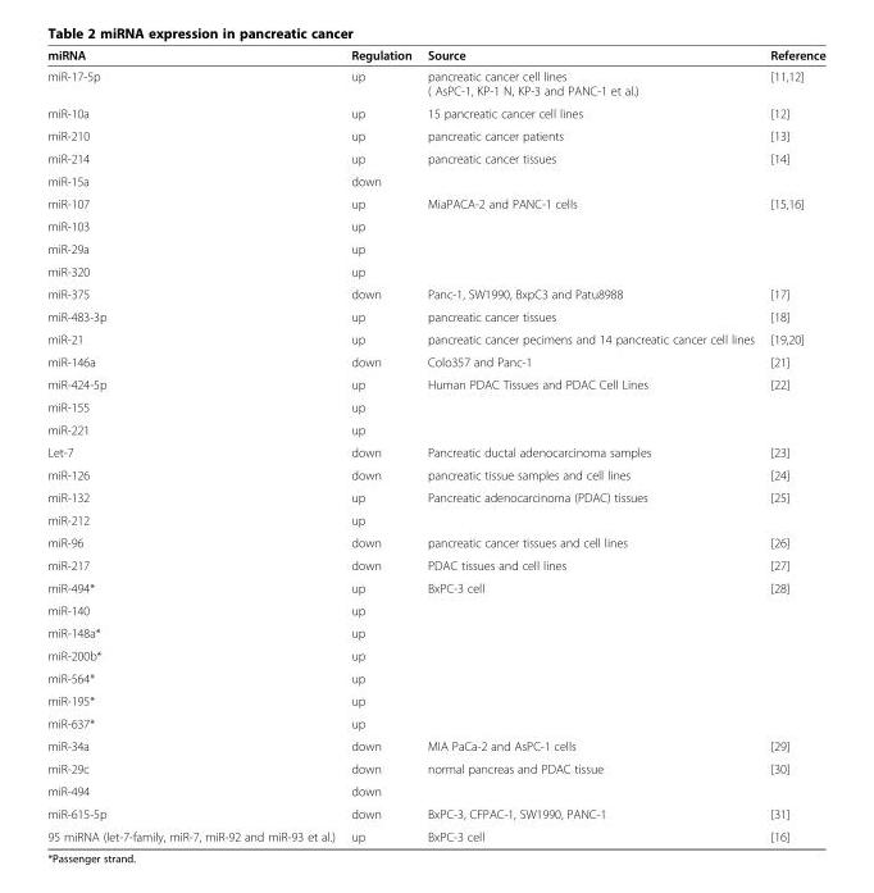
<table><thead><tr><td>miRNA</td><td>Regulation</td><td>Source</td><td>Reference</td></tr></thead><tbody><tr><td>miR-17-5p</td><td>up</td><td>pancreatic cancer cell lines ( AsPC-1, KP-1 N, KP-3 and PANC-1 et al.)</td><td>[11,12]</td></tr><tr><td>miR-10a</td><td>up</td><td>15 pancreatic cancer cell lines</td><td>[12]</td></tr><tr><td>miR-210</td><td>up</td><td>pancreatic cancer patients</td><td>[13]</td></tr><tr><td>miR-214</td><td>up</td><td>pancreatic cancer tissues</td><td>[14]</td></tr><tr><td>miR-15a</td><td>down</td><td></td><td></td></tr><tr><td>miR-107</td><td>up</td><td rowspan="4">MiaPACA-2 and PANC-1 cells</td><td rowspan="4">[15,16]</td></tr><tr><td>miR-103</td><td>up</td></tr><tr><td>miR-29a</td><td>up</td></tr><tr><td>miR-320</td><td>up</td></tr><tr><td>miR-375</td><td>down</td><td>Panc-1, SW1990, BxpC3 and Patu8988</td><td>[17]</td></tr><tr><td>miR-483-3p</td><td>up</td><td>pancreatic cancer tissues</td><td>[18]</td></tr><tr><td>miR-21</td><td>up</td><td>pancreatic cancer pecimens and 14 pancreatic cancer cell lines</td><td>[19,20]</td></tr><tr><td>miR-146a</td><td>down</td><td>Colo357 and Panc-1</td><td>[21]</td></tr><tr><td>miR-424-5p</td><td>up</td><td rowspan="3">Human PDAC Tissues and PDAC Cell Lines</td><td rowspan="3">[22]</td></tr><tr><td>miR-155</td><td>up</td></tr><tr><td>miR-221</td><td>up</td></tr><tr><td>Let-7</td><td>down</td><td>Pancreatic ductal adenocarcinoma samples</td><td>[23]</td></tr><tr><td>miR-126</td><td>down</td><td>pancreatic tissue samples and cell lines</td><td>[24]</td></tr><tr><td>miR-132</td><td>up</td><td rowspan="2">Pancreatic adenocarcinoma (PDAC) tissues</td><td rowspan="2">[25]</td></tr><tr><td>miR-212</td><td>up</td></tr><tr><td>miR-96</td><td>down</td><td>pancreatic cancer tissues and cell lines</td><td>[26]</td></tr><tr><td>miR-217</td><td>down</td><td>PDAC tissues and cell lines</td><td>[27]</td></tr><tr><td>miR-494*</td><td>up</td><td rowspan="7">BxPC-3 cell</td><td rowspan="7">[28]</td></tr><tr><td>miR-140</td><td>up</td></tr><tr><td>miR-148a*</td><td>up</td></tr><tr><td>miR-200b*</td><td>up</td></tr><tr><td>miR-564*</td><td>up</td></tr><tr><td>miR-195*</td><td>up</td></tr><tr><td>miR-637*</td><td>up</td></tr><tr><td>miR-34a</td><td>down</td><td>MIA PaCa-2 and AsPC-1 cells</td><td>[29]</td></tr><tr><td>miR-29c</td><td>down</td><td rowspan="2">normal pancreas and PDAC tissue</td><td rowspan="2">[30]</td></tr><tr><td>miR-494</td><td>down</td></tr><tr><td>miR-615-5p</td><td>down</td><td>BxPC-3, CFPAC-1, SW1990, PANC-1</td><td>[31]</td></tr><tr><td>95 miRNA (let-7-family, miR-7, miR-92 and miR-93 et al.)</td><td>up</td><td>BxPC-3 cell</td><td>[16]</td></tr></tbody></table>